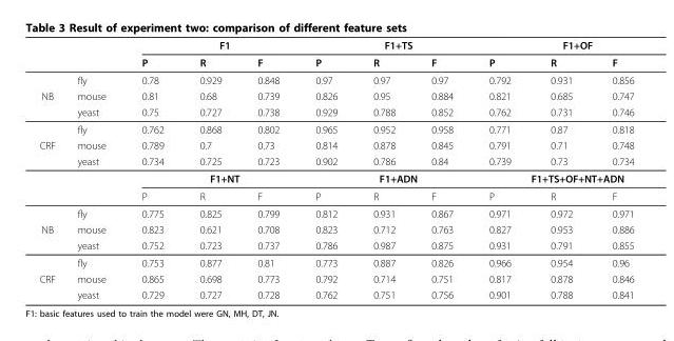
<table><thead><tr><td rowspan="2"></td><td rowspan="2"></td><td colspan="3">F1</td><td colspan="3">F1+TS</td><td colspan="3">F1+OF</td></tr><tr><td>P</td><td>R</td><td>F</td><td>P</td><td>R</td><td>F</td><td>P</td><td>R</td><td>F</td></tr></thead><tbody><tr><td></td><td>fly</td><td>0.78</td><td>0.929</td><td>0.848</td><td>0.97</td><td>0.97</td><td>0.97</td><td>0.792</td><td>0.931</td><td>0.856</td></tr><tr><td rowspan="3">NB</td><td>mouse</td><td>0.81</td><td>0.68</td><td>0.739</td><td>0.826</td><td>0.95</td><td>0.884</td><td>0.821</td><td>0.685</td><td>0.747</td></tr><tr><td>yeast</td><td>0.75</td><td>0.727</td><td>0.738</td><td>0.929</td><td>0.788</td><td>0.852</td><td>0.762</td><td>0.731</td><td>0.746</td></tr><tr><td>fly</td><td>0.762</td><td>0.868</td><td>0.802</td><td>0.965</td><td>0.952</td><td>0.958</td><td>0.771</td><td>0.87</td><td>0.818</td></tr><tr><td rowspan="5">CRF</td><td>mouse</td><td>0.789</td><td>0.7</td><td>0.73</td><td>0.814</td><td>0.878</td><td>0.845</td><td>0.791</td><td>0.71</td><td>0.748</td></tr><tr><td>yeast</td><td>0.734</td><td>0.725</td><td>0.723</td><td>0.902</td><td>0.786</td><td>0.84</td><td>0.739</td><td>0.73</td><td>0.734</td></tr><tr><td></td><td colspan="3">F1+NT</td><td colspan="3">F1+ADN</td><td colspan="3">F1+TS+OF+NT+ADN</td></tr><tr><td></td><td>P</td><td>R</td><td>F</td><td>P</td><td>R</td><td>F</td><td>P</td><td>R</td><td>F</td></tr><tr><td>fly</td><td>0.775</td><td>0.825</td><td>0.799</td><td>0.812</td><td>0.931</td><td>0.867</td><td>0.971</td><td>0.972</td><td>0.971</td></tr><tr><td rowspan="3">NB</td><td>mouse</td><td>0.823</td><td>0.621</td><td>0.708</td><td>0.823</td><td>0.712</td><td>0.763</td><td>0.827</td><td>0.953</td><td>0.886</td></tr><tr><td>yeast</td><td>0.752</td><td>0.723</td><td>0.737</td><td>0.786</td><td>0.987</td><td>0.875</td><td>0.931</td><td>0.791</td><td>0.855</td></tr><tr><td>fly</td><td>0.753</td><td>0.877</td><td>0.81</td><td>0.773</td><td>0.887</td><td>0.826</td><td>0.966</td><td>0.954</td><td>0.96</td></tr><tr><td rowspan="2">CRF</td><td>mouse</td><td>0.865</td><td>0.698</td><td>0.773</td><td>0.792</td><td>0.714</td><td>0.751</td><td>0.817</td><td>0.878</td><td>0.846</td></tr><tr><td>yeast</td><td>0.729</td><td>0.727</td><td>0.728</td><td>0.762</td><td>0.751</td><td>0.756</td><td>0.901</td><td>0.788</td><td>0.841</td></tr></tbody></table>